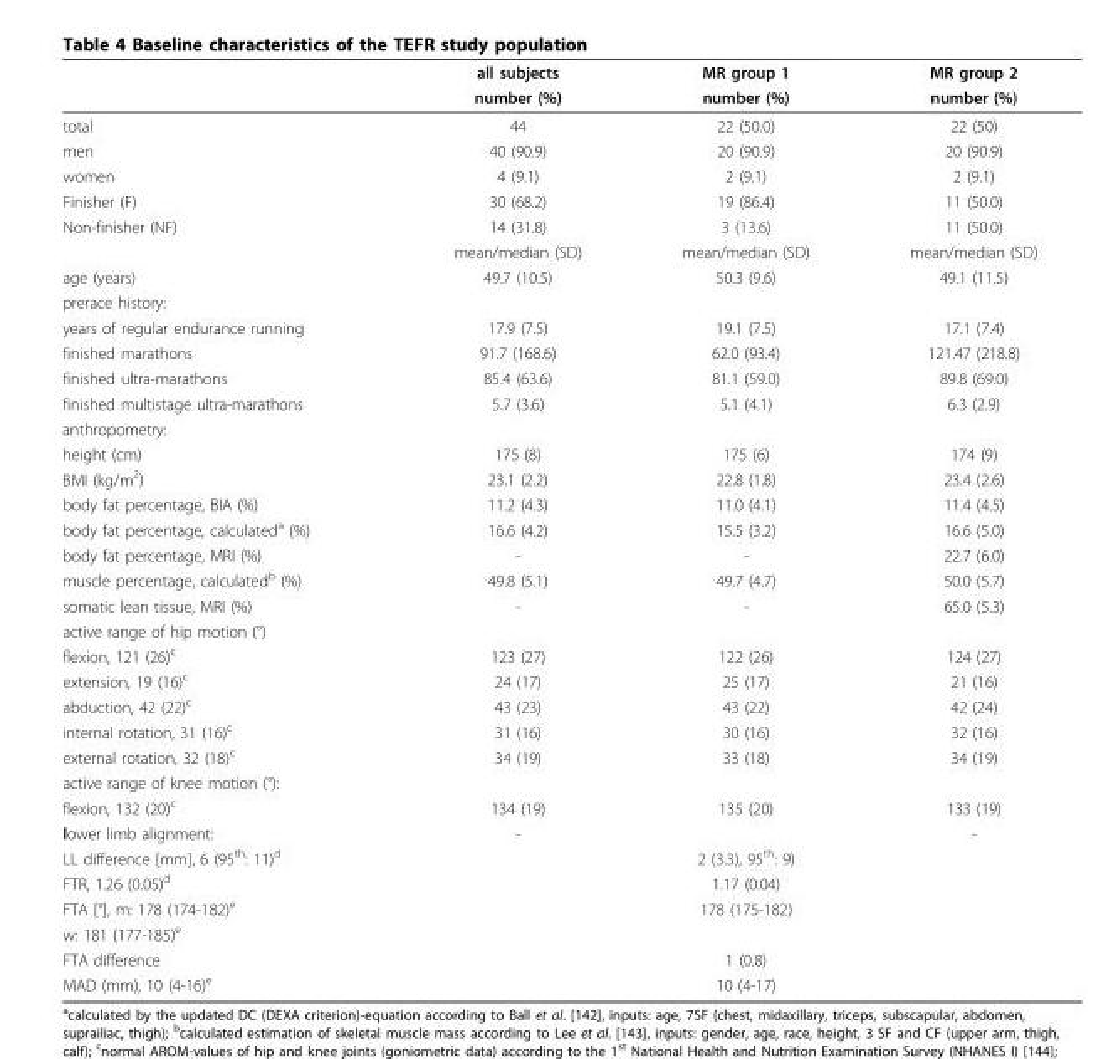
<table><thead><tr><td rowspan="2"></td><td rowspan="2">all subjects number (%)</td><td rowspan="2">MR group 1 number (%)</td><td rowspan="2">MR group 2 number (%)</td></tr><tr></tr></thead><tbody><tr><td>total</td><td>44</td><td>22 (50.0)</td><td>22 (50)</td></tr><tr><td>men</td><td>40 (90.9)</td><td>20 (90.9)</td><td>20 (90.9)</td></tr><tr><td>women</td><td>4 (9.1)</td><td>2 (9.1)</td><td>2 (9.1)</td></tr><tr><td>Finisher (F)</td><td>30 (68.2)</td><td>19 (86.4)</td><td>11 (50.0)</td></tr><tr><td rowspan="2">Non-finisher (NF)</td><td>14 (31.8)</td><td>3 (13.6)</td><td>11 (50.0)</td></tr><tr><td>mean/median (SD)</td><td>mean/median (SD)</td><td>mean/median (SD)</td></tr><tr><td>age (years)</td><td>49.7 (10.5)</td><td>50.3 (9.6)</td><td>49.1 (11.5)</td></tr><tr><td colspan="4">prerace history:</td></tr><tr><td>years of regular endurance running</td><td>17.9 (7.5)</td><td>19.1 (7.5)</td><td>17.1 (7.4)</td></tr><tr><td>finished marathons</td><td>91.7 (168.6)</td><td>62.0 (93.4)</td><td>121.47 (218.8)</td></tr><tr><td>finished ultra-marathons</td><td>85.4 (63.6)</td><td>81.1 (59.0)</td><td>89.8 (69.0)</td></tr><tr><td>finished multistage ultra-marathons</td><td>5.7 (3.6)</td><td>5.1 (4.1)</td><td>6.3 (2.9)</td></tr><tr><td colspan="4">anthropometry:</td></tr><tr><td>height (cm)</td><td>175 (8)</td><td>175 (6)</td><td>174 (9)</td></tr><tr><td>BMI (kg/m<sup>2</sup>)</td><td>23.1 (2.2)</td><td>22.8 (1.8)</td><td>23.4 (2.6)</td></tr><tr><td>body fat percentage, BIA (%)</td><td>11.2 (4.3)</td><td>11.0 (4.1)</td><td>11.4 (4.5)</td></tr><tr><td>body fat percentage, calculated<sup>a</sup> (%)</td><td>16.6 (4.2)</td><td>15.5 (3.2)</td><td>16.6 (5.0)</td></tr><tr><td>body fat percentage, MRI (%)</td><td>-</td><td>-</td><td>22.7 (6.0)</td></tr><tr><td>muscle percentage, calculated<sup>b</sup> (%)</td><td>49.8 (5.1)</td><td>49.7 (4.7)</td><td>50.0 (5.7)</td></tr><tr><td>somatic lean tissue, MRI (%)</td><td>-</td><td>-</td><td>65.0 (5.3)</td></tr><tr><td colspan="4">active range of hip motion (°)</td></tr><tr><td>flexion, 121 (26)<sup>c</sup></td><td>123 (27)</td><td>122 (26)</td><td>124 (27)</td></tr><tr><td>extension, 19 (16)<sup>c</sup></td><td>24 (17)</td><td>25 (17)</td><td>21 (16)</td></tr><tr><td>abduction, 42 (22)<sup>c</sup></td><td>43 (23)</td><td>43 (22)</td><td>42 (24)</td></tr><tr><td>internal rotation, 31 (16)<sup>c</sup></td><td>31 (16)</td><td>30 (16)</td><td>32 (16)</td></tr><tr><td>external rotation, 32 (18)<sup>c</sup></td><td>34 (19)</td><td>33 (18)</td><td>34 (19)</td></tr><tr><td colspan="4">active range of knee motion (°):</td></tr><tr><td>flexion, 132 (20)<sup>c</sup></td><td>134 (19)</td><td>135 (20)</td><td>133 (19)</td></tr><tr><td>lower limb alignment:</td><td>-</td><td></td><td>-</td></tr><tr><td>LL difference [mm], 6 (95<sup>th</sup>: 11)<sup>d</sup></td><td></td><td>2 (3.3), 95<sup>th</sup>: 9)</td><td></td></tr><tr><td>FTR, 1.26 (0.05)<sup>d</sup></td><td></td><td>1.17 (0.04)</td><td></td></tr><tr><td>FTA [°], m: 178 (174-182)<sup>e</sup></td><td></td><td>178 (175-182)</td><td></td></tr><tr><td colspan="4">w: 181 (177-185)<sup>e</sup></td></tr><tr><td>FTA difference</td><td></td><td>1 (0.8)</td><td></td></tr><tr><td>MAD (mm), 10 (4-16)<sup>e</sup></td><td></td><td>10 (4-17)</td><td></td></tr></tbody></table>